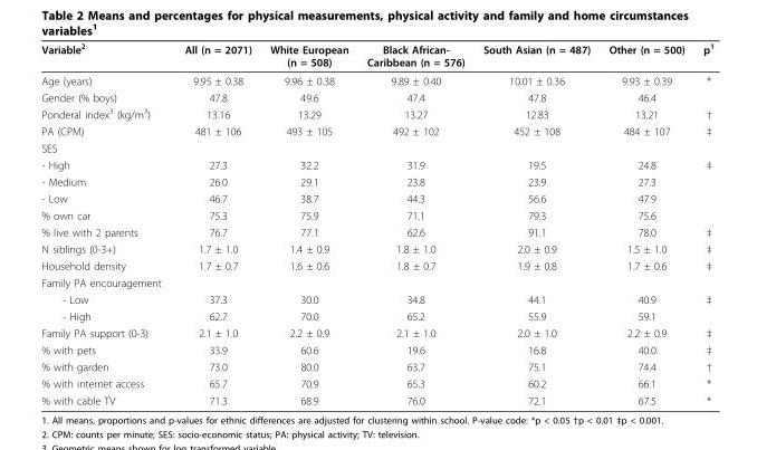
<table><thead><tr><td>Variable<sup>2</sup></td><td>All (n = 2071)</td><td>White European (n = 508)</td><td>Black African- Caribbean (n = 576)</td><td>South Asian (n = 487)</td><td>Other (n = 500)</td><td>p<sup>1</sup></td></tr></thead><tbody><tr><td>Age (years)</td><td>9.95 ± 0.38</td><td>9.96 ± 0.38</td><td>9.89 ± 0.40</td><td>10.01 ± 0.36</td><td>9.93 ± 0.39</td><td>*</td></tr><tr><td>Gender (% boys)</td><td>47.8</td><td>49.6</td><td>47.4</td><td>47.8</td><td>46.4</td><td></td></tr><tr><td>Ponderal index<sup>3</sup> (kg/m<sup>3</sup>)</td><td>13.16</td><td>13.29</td><td>13.27</td><td>12.83</td><td>13.21</td><td>†</td></tr><tr><td>PA (CPM)</td><td>481 ± 106</td><td>493 ± 105</td><td>492 ± 102</td><td>452 ± 108</td><td>484 ± 107</td><td>‡</td></tr><tr><td colspan="7">SES</td></tr><tr><td>- High</td><td>27.3</td><td>32.2</td><td>31.9</td><td>19.5</td><td>24.8</td><td>‡</td></tr><tr><td>- Medium</td><td>26.0</td><td>29.1</td><td>23.8</td><td>23.9</td><td>27.3</td><td></td></tr><tr><td>- Low</td><td>46.7</td><td>38.7</td><td>44.3</td><td>56.6</td><td>47.9</td><td></td></tr><tr><td>% own car</td><td>75.3</td><td>75.9</td><td>71.1</td><td>79.3</td><td>75.6</td><td></td></tr><tr><td>% live with 2 parents</td><td>76.7</td><td>77.1</td><td>62.6</td><td>91.1</td><td>78.0</td><td>‡</td></tr><tr><td>N siblings (0-3+)</td><td>1.7 ± 1.0</td><td>1.4 ± 0.9</td><td>1.8 ± 1.0</td><td>2.0 ± 0.9</td><td>1.5 ± 1.0</td><td>‡</td></tr><tr><td>Household density</td><td>1.7 ± 0.7</td><td>1.6 ± 0.6</td><td>1.8 ± 0.7</td><td>1.9 ± 0.8</td><td>1.7 ± 0.6</td><td>‡</td></tr><tr><td colspan="7">Family PA encouragement</td></tr><tr><td>- Low</td><td>37.3</td><td>30.0</td><td>34.8</td><td>44.1</td><td>40.9</td><td>‡</td></tr><tr><td>- High</td><td>62.7</td><td>70.0</td><td>65.2</td><td>55.9</td><td>59.1</td><td></td></tr><tr><td>Family PA support (0-3)</td><td>2.1 ± 1.0</td><td>2.2 ± 0.9</td><td>2.1 ± 1.0</td><td>2.0 ± 1.0</td><td>2.2 ± 0.9</td><td>‡</td></tr><tr><td>% with pets</td><td>33.9</td><td>60.6</td><td>19.6</td><td>16.8</td><td>40.0</td><td>‡</td></tr><tr><td>% with garden</td><td>73.0</td><td>80.0</td><td>63.7</td><td>75.1</td><td>74.4</td><td>†</td></tr><tr><td>% with internet access</td><td>65.7</td><td>70.9</td><td>65.3</td><td>60.2</td><td>66.1</td><td>*</td></tr><tr><td>% with cable TV</td><td>71.3</td><td>68.9</td><td>76.0</td><td>72.1</td><td>67.5</td><td>*</td></tr></tbody></table>